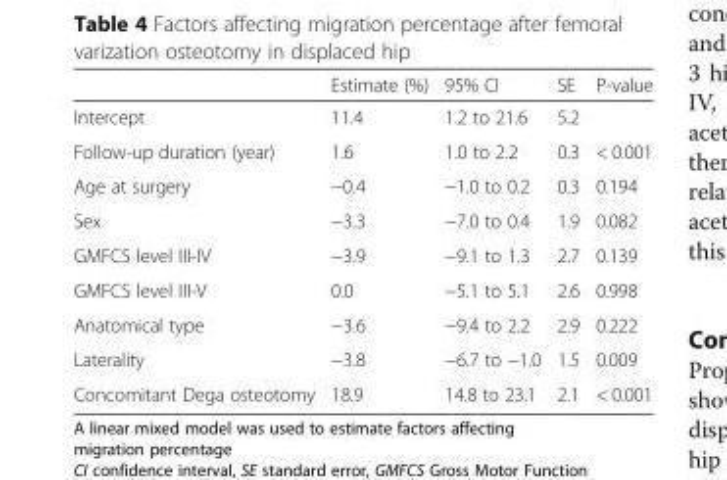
<table><thead><tr><td></td><td>Estimate (%)</td><td>95% CI</td><td>SE</td><td>P-value</td></tr></thead><tbody><tr><td>Intercept</td><td>11.4</td><td>1.2 to 21.6</td><td>5.2</td><td></td></tr><tr><td>Follow-up duration (year)</td><td>1.6</td><td>1.0 to 2.2</td><td>0.3</td><td>&lt; 0.001</td></tr><tr><td>Age at surgery</td><td>−0.4</td><td>−1.0 to 0.2</td><td>0.3</td><td>0.194</td></tr><tr><td>Sex</td><td>−3.3</td><td>−7.0 to 0.4</td><td>1.9</td><td>0.082</td></tr><tr><td>GMFCS level III-IV</td><td>−3.9</td><td>−9.1 to 1.3</td><td>2.7</td><td>0.139</td></tr><tr><td>GMFCS level III-V</td><td>0.0</td><td>−5.1 to 5.1</td><td>2.6</td><td>0.998</td></tr><tr><td>Anatomical type</td><td>−3.6</td><td>−9.4 to 2.2</td><td>2.9</td><td>0.222</td></tr><tr><td>Laterality</td><td>−3.8</td><td>−6.7 to −1.0</td><td>1.5</td><td>0.009</td></tr><tr><td>Concomitant Dega osteotomy</td><td>18.9</td><td>14.8 to 23.1</td><td>2.1</td><td>&lt; 0.001</td></tr></tbody></table>